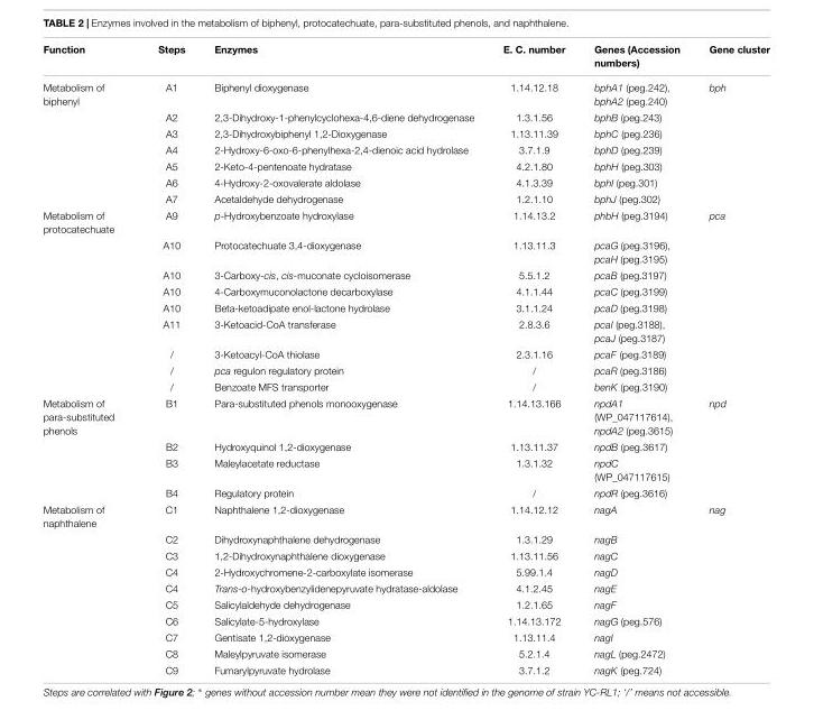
<table><thead><tr><td>Function</td><td>Steps</td><td>Enzymes</td><td>E. C. number</td><td>Genes (Accession numbers)</td><td>Gene cluster</td></tr></thead><tbody><tr><td rowspan="7">Metabolism of biphenyl</td><td>A1</td><td>Biphenyl dioxygenase</td><td>1.14.12.18</td><td>bphA1 (peg.242), bphA2 (peg.240)</td><td>bph</td></tr><tr><td>A2</td><td>2,3-Dihydroxy-1-phenylcyclohexa-4,6-diene dehydrogenase</td><td>1.3.1.56</td><td>bphB (peg.243)</td><td></td></tr><tr><td>A3</td><td>2,3-Dihydroxybiphenyl 1,2-Dioxygenase</td><td>1.13.11.39</td><td>bphC (peg.236)</td><td></td></tr><tr><td>A4</td><td>2-Hydroxy-6-oxo-6-phenylhexa-2,4-dienoic acid hydrolase</td><td>3.7.1.9</td><td>bphD (peg.239)</td><td></td></tr><tr><td>A5</td><td>2-Keto-4-pentenoate hydratase</td><td>4.2.1.80</td><td>bphH (peg.303)</td><td></td></tr><tr><td>A6</td><td>4-Hydroxy-2-oxovalerate aldolase</td><td>4.1.3.39</td><td>bphI (peg.301)</td><td></td></tr><tr><td>A7</td><td>Acetaldehyde dehydrogenase</td><td>1.2.1.10</td><td>bphJ (peg.302)</td><td></td></tr><tr><td rowspan="9">Metabolism of protocatechuate</td><td>A9</td><td>p-Hydroxybenzoate hydroxylase</td><td>1.14.13.2</td><td>phbH (peg.3194)</td><td>pca</td></tr><tr><td>A10</td><td>Protocatechuate 3,4-dioxygenase</td><td>1.13.11.3</td><td>pcaG (peg.3196), pcaH (peg.3195)</td><td></td></tr><tr><td>A10</td><td>3-Carboxy-cis, cis-muconate cycloisomerase</td><td>5.5.1.2</td><td>pcaB (peg.3197)</td><td></td></tr><tr><td>A10</td><td>4-Carboxymuconolactone decarboxylase</td><td>4.1.1.44</td><td>pcaC (peg.3199)</td><td></td></tr><tr><td>A10</td><td>Beta-ketoadipate enol-lactone hydrolase</td><td>3.1.1.24</td><td>pcaD (peg.3198)</td><td></td></tr><tr><td>A11</td><td>3-Ketoacid-CoA transferase</td><td>2.8.3.6</td><td>pcaI (peg.3188), pcaJ (peg.3187)</td><td></td></tr><tr><td>/</td><td>3-Ketoacyl-CoA thiolase</td><td>2.3.1.16</td><td>pcaF (peg.3189)</td><td></td></tr><tr><td>/</td><td>pca regulon regulatory protein</td><td>/</td><td>pcaR (peg.3186)</td><td></td></tr><tr><td>/</td><td>Benzoate MFS transporter</td><td>/</td><td>benK (peg.3190)</td><td></td></tr><tr><td rowspan="4">Metabolism of para-substituted phenols</td><td>B1</td><td>Para-substituted phenols monooxygenase</td><td>1.14.13.166</td><td>npdA1 (WP_047117614), npdA2 (peg.3615)</td><td>npd</td></tr><tr><td>B2</td><td>Hydroxyquinol 1,2-dioxygenase</td><td>1.13.11.37</td><td>npdB (peg.3617)</td><td></td></tr><tr><td>B3</td><td>Maleylacetate reductase</td><td>1.3.1.32</td><td>npdC (WP_047117615)</td><td></td></tr><tr><td>B4</td><td>Regulatory protein</td><td>/</td><td>npdR (peg.3616)</td><td></td></tr><tr><td rowspan="10">Metabolism of naphthalene</td><td>C1</td><td>Naphthalene 1,2-dioxygenase</td><td>1.14.12.12</td><td>nagA</td><td>nag</td></tr><tr><td>C2</td><td>Dihydroxynaphthalene dehydrogenase</td><td>1.3.1.29</td><td>nagB</td><td></td></tr><tr><td>C3</td><td>1,2-Dihydroxynaphthalene dioxygenase</td><td>1.13.11.56</td><td>nagC</td><td></td></tr><tr><td>C4</td><td>2-Hydroxychromene-2-carboxylate isomerase</td><td>5.99.1.4</td><td>nagD</td><td></td></tr><tr><td>C4</td><td>Trans-o-hydroxybenzylidenepyruvate hydratase-aldolase</td><td>4.1.2.45</td><td>nagE</td><td></td></tr><tr><td>C5</td><td>Salicylaldehyde dehydrogenase</td><td>1.2.1.65</td><td>nagF</td><td></td></tr><tr><td>C6</td><td>Salicylate-5-hydroxylase</td><td>1.14.13.172</td><td>nagG (peg.576)</td><td></td></tr><tr><td>C7</td><td>Gentisate 1,2-dioxygenase</td><td>1.13.11.4</td><td>nagI</td><td></td></tr><tr><td>C8</td><td>Maleylpyruvate isomerase</td><td>5.2.1.4</td><td>nagL (peg.2472)</td><td></td></tr><tr><td>C9</td><td>Fumarylpyruvate hydrolase</td><td>3.7.1.2</td><td>nagK (peg.724)</td><td></td></tr></tbody></table>